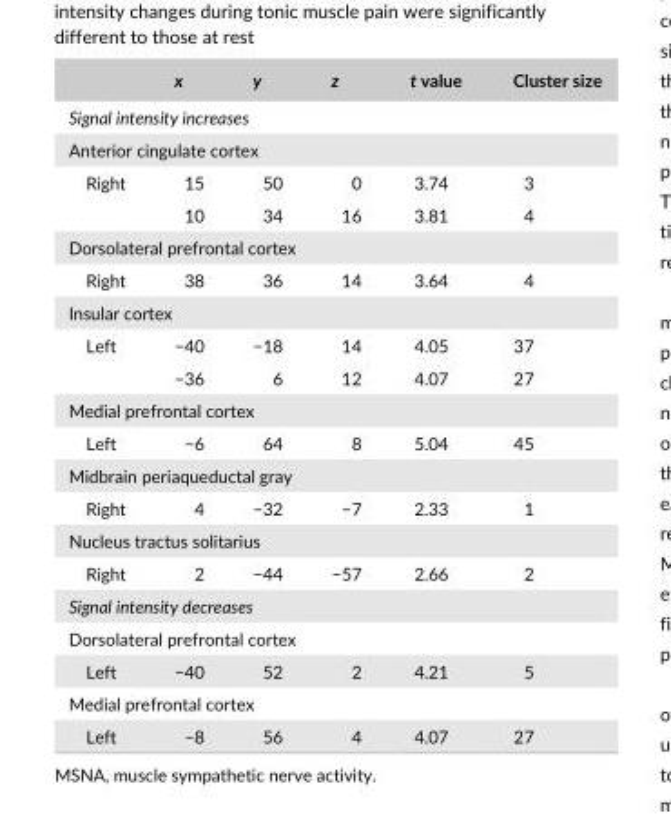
<table><thead><tr><td></td><td>x</td><td>y</td><td>z</td><td>t value</td><td>Cluster size</td></tr></thead><tbody><tr><td colspan="6">Signal intensity increases</td></tr><tr><td colspan="6">Anterior cingulate cortex</td></tr><tr><td rowspan="2">Right</td><td>15</td><td>50</td><td>0</td><td>3.74</td><td>3</td></tr><tr><td>10</td><td>34</td><td>16</td><td>3.81</td><td>4</td></tr><tr><td colspan="6">Dorsolateral prefrontal cortex</td></tr><tr><td>Right</td><td>38</td><td>36</td><td>14</td><td>3.64</td><td>4</td></tr><tr><td colspan="6">Insular cortex</td></tr><tr><td rowspan="2">Left</td><td>−40</td><td>−18</td><td>14</td><td>4.05</td><td>37</td></tr><tr><td>−36</td><td>6</td><td>12</td><td>4.07</td><td>27</td></tr><tr><td colspan="6">Medial prefrontal cortex</td></tr><tr><td>Left</td><td>−6</td><td>64</td><td>8</td><td>5.04</td><td>45</td></tr><tr><td colspan="6">Midbrain periaqueductal gray</td></tr><tr><td>Right</td><td>4</td><td>−32</td><td>−7</td><td>2.33</td><td>1</td></tr><tr><td colspan="6">Nucleus tractus solitarius</td></tr><tr><td>Right</td><td>2</td><td>−44</td><td>−57</td><td>2.66</td><td>2</td></tr><tr><td colspan="6">Signal intensity decreases</td></tr><tr><td colspan="6">Dorsolateral prefrontal cortex</td></tr><tr><td>Left</td><td>−40</td><td>52</td><td>2</td><td>4.21</td><td>5</td></tr><tr><td colspan="6">Medial prefrontal cortex</td></tr><tr><td>Left</td><td>−8</td><td>56</td><td>4</td><td>4.07</td><td>27</td></tr></tbody></table>